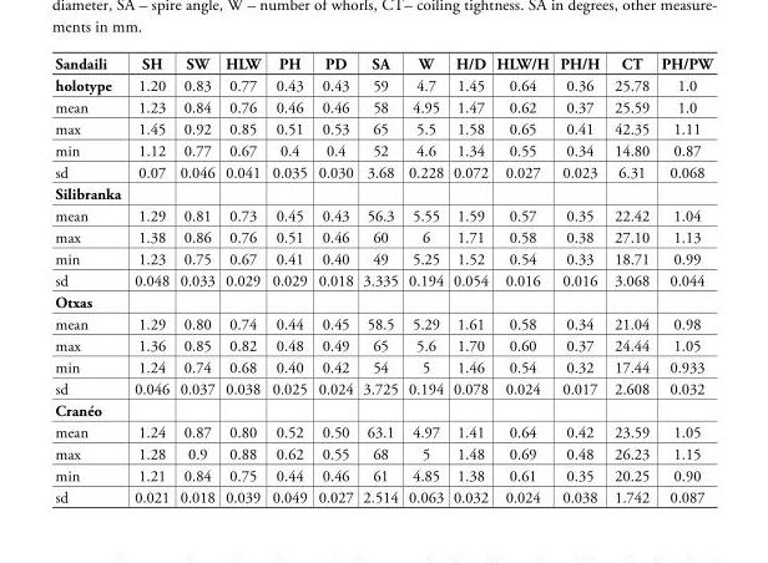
<table><thead><tr><td>Sandaili</td><td>SH</td><td>SW</td><td>HLW</td><td>PH</td><td>PD</td><td>SA</td><td>W</td><td>H/D</td><td>HLW/H</td><td>PH/H</td><td>CT</td><td>PH/PW</td></tr></thead><tbody><tr><td>holotype</td><td>1.20</td><td>0.83</td><td>0.77</td><td>0.43</td><td>0.43</td><td>59</td><td>4.7</td><td>1.45</td><td>0.64</td><td>0.36</td><td>25.78</td><td>1.0</td></tr><tr><td>mean</td><td>1.23</td><td>0.84</td><td>0.76</td><td>0.46</td><td>0.46</td><td>58</td><td>4.95</td><td>1.47</td><td>0.62</td><td>0.37</td><td>25.59</td><td>1.0</td></tr><tr><td>max</td><td>1.45</td><td>0.92</td><td>0.85</td><td>0.51</td><td>0.53</td><td>65</td><td>5.5</td><td>1.58</td><td>0.65</td><td>0.41</td><td>42.35</td><td>1.11</td></tr><tr><td>min</td><td>1.12</td><td>0.77</td><td>0.67</td><td>0.4</td><td>0.4</td><td>52</td><td>4.6</td><td>1.34</td><td>0.55</td><td>0.34</td><td>14.80</td><td>0.87</td></tr><tr><td>sd</td><td>0.07</td><td>0.046</td><td>0.041</td><td>0.035</td><td>0.030</td><td>3.68</td><td>0.228</td><td>0.072</td><td>0.027</td><td>0.023</td><td>6.31</td><td>0.068</td></tr><tr><td colspan="13">Silibranka</td></tr><tr><td>mean</td><td>1.29</td><td>0.81</td><td>0.73</td><td>0.45</td><td>0.43</td><td>56.3</td><td>5.55</td><td>1.59</td><td>0.57</td><td>0.35</td><td>22.42</td><td>1.04</td></tr><tr><td>max</td><td>1.38</td><td>0.86</td><td>0.76</td><td>0.51</td><td>0.46</td><td>60</td><td>6</td><td>1.71</td><td>0.58</td><td>0.38</td><td>27.10</td><td>1.13</td></tr><tr><td>min</td><td>1.23</td><td>0.75</td><td>0.67</td><td>0.41</td><td>0.40</td><td>49</td><td>5.25</td><td>1.52</td><td>0.54</td><td>0.33</td><td>18.71</td><td>0.99</td></tr><tr><td>sd</td><td>0.048</td><td>0.033</td><td>0.029</td><td>0.029</td><td>0.018</td><td>3.335</td><td>0.194</td><td>0.054</td><td>0.016</td><td>0.016</td><td>3.068</td><td>0.044</td></tr><tr><td colspan="13">Otxas</td></tr><tr><td>mean</td><td>1.29</td><td>0.80</td><td>0.74</td><td>0.44</td><td>0.45</td><td>58.5</td><td>5.29</td><td>1.61</td><td>0.58</td><td>0.34</td><td>21.04</td><td>0.98</td></tr><tr><td>max</td><td>1.36</td><td>0.85</td><td>0.82</td><td>0.48</td><td>0.49</td><td>65</td><td>5.6</td><td>1.70</td><td>0.60</td><td>0.37</td><td>24.44</td><td>1.05</td></tr><tr><td>min</td><td>1.24</td><td>0.74</td><td>0.68</td><td>0.40</td><td>0.42</td><td>54</td><td>5</td><td>1.46</td><td>0.54</td><td>0.32</td><td>17.44</td><td>0.933</td></tr><tr><td>sd</td><td>0.046</td><td>0.037</td><td>0.038</td><td>0.025</td><td>0.024</td><td>3.725</td><td>0.194</td><td>0.078</td><td>0.024</td><td>0.017</td><td>2.608</td><td>0.032</td></tr><tr><td colspan="13">Cranéo</td></tr><tr><td>mean</td><td>1.24</td><td>0.87</td><td>0.80</td><td>0.52</td><td>0.50</td><td>63.1</td><td>4.97</td><td>1.41</td><td>0.64</td><td>0.42</td><td>23.59</td><td>1.05</td></tr><tr><td>max</td><td>1.28</td><td>0.9</td><td>0.88</td><td>0.62</td><td>0.55</td><td>68</td><td>5</td><td>1.48</td><td>0.69</td><td>0.48</td><td>26.23</td><td>1.15</td></tr><tr><td>min</td><td>1.21</td><td>0.84</td><td>0.75</td><td>0.44</td><td>0.46</td><td>61</td><td>4.85</td><td>1.38</td><td>0.61</td><td>0.35</td><td>20.25</td><td>0.90</td></tr><tr><td>sd</td><td>0.021</td><td>0.018</td><td>0.039</td><td>0.049</td><td>0.027</td><td>2.514</td><td>0.063</td><td>0.032</td><td>0.024</td><td>0.038</td><td>1.742</td><td>0.087</td></tr></tbody></table>